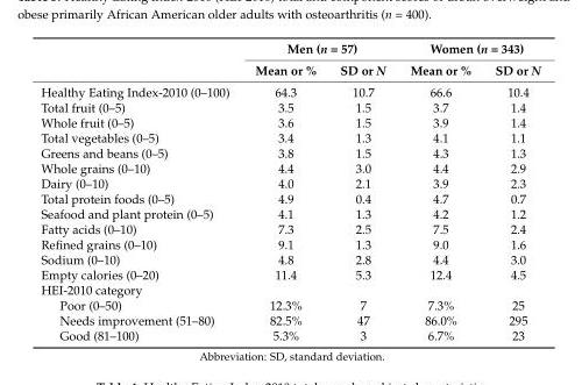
<table><thead><tr><td rowspan="2"></td><td colspan="2">Men (n = 57)</td><td colspan="2">Women (n = 343)</td></tr><tr><td>Mean or %</td><td>SD or N</td><td>Mean or %</td><td>SD or N</td></tr></thead><tbody><tr><td>Healthy Eating Index-2010 (0–100)</td><td>64.3</td><td>10.7</td><td>66.6</td><td>10.4</td></tr><tr><td>Total fruit (0–5)</td><td>3.5</td><td>1.5</td><td>3.7</td><td>1.4</td></tr><tr><td>Whole fruit (0–5)</td><td>3.6</td><td>1.5</td><td>3.9</td><td>1.4</td></tr><tr><td>Total vegetables (0–5)</td><td>3.4</td><td>1.3</td><td>4.1</td><td>1.1</td></tr><tr><td>Greens and beans (0–5)</td><td>3.8</td><td>1.5</td><td>4.3</td><td>1.3</td></tr><tr><td>Whole grains (0–10)</td><td>4.4</td><td>3.0</td><td>4.4</td><td>2.9</td></tr><tr><td>Dairy (0–10)</td><td>4.0</td><td>2.1</td><td>3.9</td><td>2.3</td></tr><tr><td>Total protein foods (0–5)</td><td>4.9</td><td>0.4</td><td>4.7</td><td>0.7</td></tr><tr><td>Seafood and plant protein (0–5)</td><td>4.1</td><td>1.3</td><td>4.2</td><td>1.2</td></tr><tr><td>Fatty acids (0–10)</td><td>7.3</td><td>2.5</td><td>7.5</td><td>2.4</td></tr><tr><td>Refined grains (0–10)</td><td>9.1</td><td>1.3</td><td>9.0</td><td>1.6</td></tr><tr><td>Sodium (0–10)</td><td>4.8</td><td>2.8</td><td>4.4</td><td>3.0</td></tr><tr><td>Empty calories (0–20)</td><td>11.4</td><td>5.3</td><td>12.4</td><td>4.5</td></tr><tr><td colspan="5">HEI-2010 category</td></tr><tr><td>Poor (0–50)</td><td>12.3%</td><td>7</td><td>7.3%</td><td>25</td></tr><tr><td>Needs improvement (51–80)</td><td>82.5%</td><td>47</td><td>86.0%</td><td>295</td></tr><tr><td>Good (81–100)</td><td>5.3%</td><td>3</td><td>6.7%</td><td>23</td></tr></tbody></table>